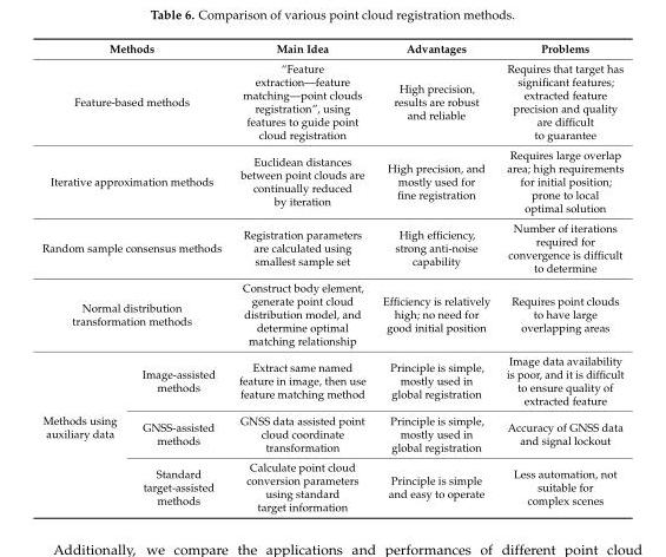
<table><thead><tr><td colspan="2">Methods</td><td>Main Idea</td><td>Advantages</td><td>Problems</td></tr></thead><tbody><tr><td colspan="2">Feature-based methods</td><td>“Feature extraction—feature matching—point clouds registration”, using features to guide point cloud registration</td><td>High precision, results are robust and reliable</td><td>Requires that target has significant features; extracted feature precision and quality are difficult to guarantee</td></tr><tr><td colspan="2">Iterative approximation methods</td><td>Euclidean distances between point clouds are continually reduced by iteration</td><td>High precision, and mostly used for fine registration</td><td>Requires large overlap area; high requirements for initial position; prone to local optimal solution</td></tr><tr><td colspan="2">Random sample consensus methods</td><td>Registration parameters are calculated using smallest sample set</td><td>High efficiency, strong anti-noise capability</td><td>Number of iterations required for convergence is difficult to determine</td></tr><tr><td colspan="2">Normal distribution transformation methods</td><td>Construct body element, generate point cloud distribution model, and determine optimal matching relationship</td><td>Efficiency is relatively high; no need for good initial position</td><td>Requires point clouds to have large overlapping areas</td></tr><tr><td rowspan="3">Methods using auxiliary data</td><td>Image-assisted methods</td><td>Extract same named feature in image, then use feature matching method</td><td>Principle is simple, mostly used in global registration</td><td>Image data availability is poor, and it is difficult to ensure quality of extracted feature</td></tr><tr><td>GNSS-assisted methods</td><td>GNSS data assisted point cloud coordinate transformation</td><td>Principle is simple, mostly used in global registration</td><td>Accuracy of GNSS data and signal lockout</td></tr><tr><td>Standard target-assisted methods</td><td>Calculate point cloud conversion parameters using standard target information</td><td>Principle is simple and easy to operate</td><td>Less automation, not suitable for complex scenes</td></tr></tbody></table>